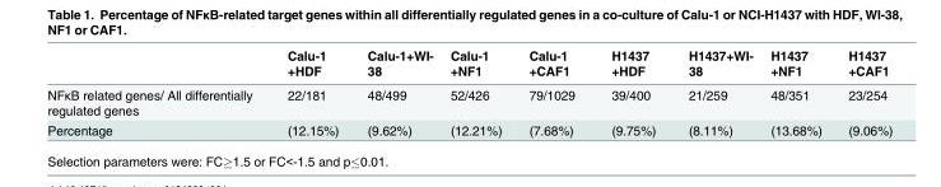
<table><thead><tr><td></td><td>Calu-1 +HDF</td><td>Calu-1+WI- 38</td><td>Calu-1 +NF1</td><td>Calu-1 +CAF1</td><td>H1437 +HDF</td><td>H1437+WI- 38</td><td>H1437 +NF1</td><td>H1437 +CAF1</td></tr></thead><tbody><tr><td>NFκB related genes/ All differentially regulated genes</td><td>22/181</td><td>48/499</td><td>52/426</td><td>79/1029</td><td>39/400</td><td>21/259</td><td>48/351</td><td>23/254</td></tr><tr><td>Percentage</td><td>(12.15%)</td><td>(9.62%)</td><td>(12.21%)</td><td>(7.68%)</td><td>(9.75%)</td><td>(8.11%)</td><td>(13.68%)</td><td>(9.06%)</td></tr></tbody></table>